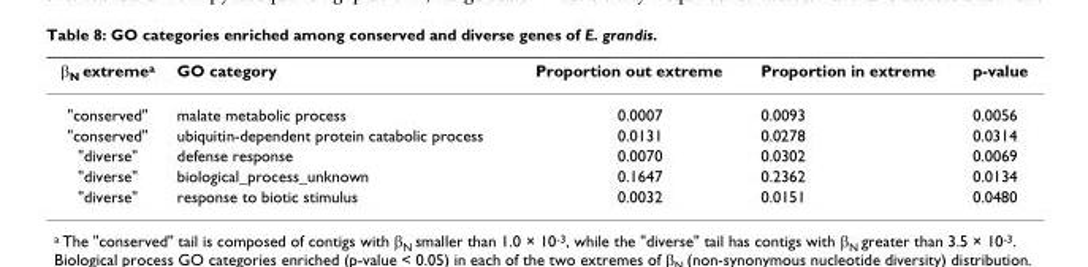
<table><thead><tr><td>β<sub>N</sub> extreme<sup>a</sup></td><td>GO category</td><td>Proportion out extreme</td><td>Proportion in extreme</td><td>p-value</td></tr></thead><tbody><tr><td>&quot;conserved&quot;</td><td>malate metabolic process</td><td>0.0007</td><td>0.0093</td><td>0.0056</td></tr><tr><td>&quot;conserved&quot;</td><td>ubiquitin-dependent protein catabolic process</td><td>0.0131</td><td>0.0278</td><td>0.0314</td></tr><tr><td>&quot;diverse&quot;</td><td>defense response</td><td>0.0070</td><td>0.0302</td><td>0.0069</td></tr><tr><td>&quot;diverse&quot;</td><td>biological_process_unknown</td><td>0.1647</td><td>0.2362</td><td>0.0134</td></tr><tr><td>&quot;diverse&quot;</td><td>response to biotic stimulus</td><td>0.0032</td><td>0.0151</td><td>0.0480</td></tr></tbody></table>